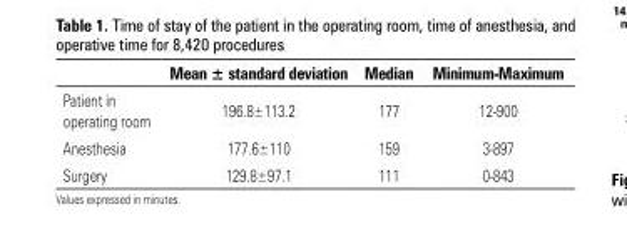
<table><thead><tr><td></td><td>mean ± standard deviation</td><td>median</td><td>minimum-maximum</td></tr></thead><tbody><tr><td>Patient in operating room</td><td>196.8±113.2</td><td>177</td><td>12-900</td></tr><tr><td>Anesthesia</td><td>177.6±110</td><td>159</td><td>3-897</td></tr><tr><td>Surgery</td><td>129.8±97.1</td><td>111</td><td>0-843</td></tr></tbody></table>